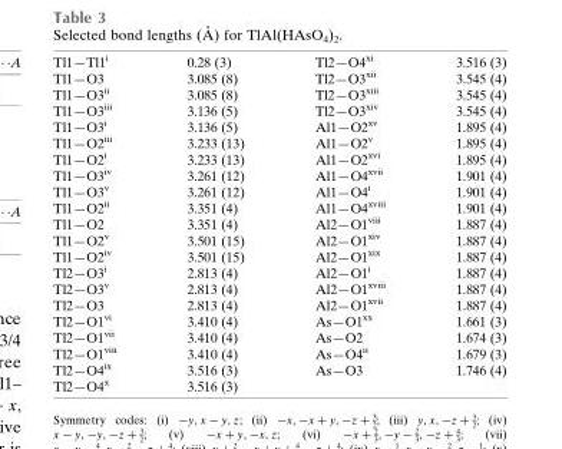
<table><tbody><tr><td>Tl1—Tl1<sup>i</sup></td><td>0.28 (3)</td><td>Tl2—O4<sup>xi</sup></td><td>3.516 (3)</td></tr><tr><td>Tl1—O3</td><td>3.085 (8)</td><td>Tl2—O3<sup>xii</sup></td><td>3.545 (4)</td></tr><tr><td>Tl1—O3<sup>ii</sup></td><td>3.085 (8)</td><td>Tl2—O3<sup>xiii</sup></td><td>3.545 (4)</td></tr><tr><td>Tl1—O3<sup>iii</sup></td><td>3.136 (5)</td><td>Tl2—O3<sup>xiv</sup></td><td>3.545 (4)</td></tr><tr><td>Tl1—O3<sup>i</sup></td><td>3.136 (5)</td><td>Al1—O2<sup>xv</sup></td><td>1.895 (4)</td></tr><tr><td>Tl1—O2<sup>iii</sup></td><td>3.233 (13)</td><td>Al1—O2<sup>v</sup></td><td>1.895 (4)</td></tr><tr><td>Tl1—O2<sup>i</sup></td><td>3.233 (13)</td><td>Al1—O2<sup>xvi</sup></td><td>1.895 (4)</td></tr><tr><td>Tl1—O3<sup>iv</sup></td><td>3.261 (12)</td><td>Al1—O4<sup>xvii</sup></td><td>1.901 (4)</td></tr><tr><td>Tl1—O3<sup>v</sup></td><td>3.261 (12)</td><td>Al1—O4<sup>i</sup></td><td>1.901 (4)</td></tr><tr><td>Tl1—O2<sup>ii</sup></td><td>3.351 (4)</td><td>Al1—O4<sup>xviii</sup></td><td>1.901 (4)</td></tr><tr><td>Tl1—O2</td><td>3.351 (4)</td><td>Al2—O1<sup>viii</sup></td><td>1.887 (4)</td></tr><tr><td>Tl1—O2<sup>v</sup></td><td>3.501 (15)</td><td>Al2—O1<sup>xiv</sup></td><td>1.887 (4)</td></tr><tr><td>Tl1—O2<sup>iv</sup></td><td>3.501 (15)</td><td>Al2—O1<sup>xix</sup></td><td>1.887 (4)</td></tr><tr><td>Tl2—O3<sup>i</sup></td><td>2.813 (4)</td><td>Al2—O1<sup>i</sup></td><td>1.887 (4)</td></tr><tr><td>Tl2—O3<sup>v</sup></td><td>2.813 (4)</td><td>Al2—O1<sup>xviii</sup></td><td>1.887 (4)</td></tr><tr><td>Tl2—O3</td><td>2.813 (4)</td><td>Al2—O1<sup>xvii</sup></td><td>1.887 (4)</td></tr><tr><td>Tl2—O1<sup>vi</sup></td><td>3.410 (4)</td><td>As—O1<sup>xx</sup></td><td>1.661 (3)</td></tr><tr><td>Tl2—O1<sup>vii</sup></td><td>3.410 (4)</td><td>As—O2</td><td>1.674 (3)</td></tr><tr><td>Tl2—O1<sup>viii</sup></td><td>3.410 (4)</td><td>As—O4<sup>ii</sup></td><td>1.679 (3)</td></tr><tr><td>Tl2—O4<sup>ix</sup></td><td>3.516 (3)</td><td>As—O3</td><td>1.746 (4)</td></tr><tr><td>Tl2—O4<sup>x</sup></td><td>3.516 (3)</td><td></td><td></td></tr></tbody></table>